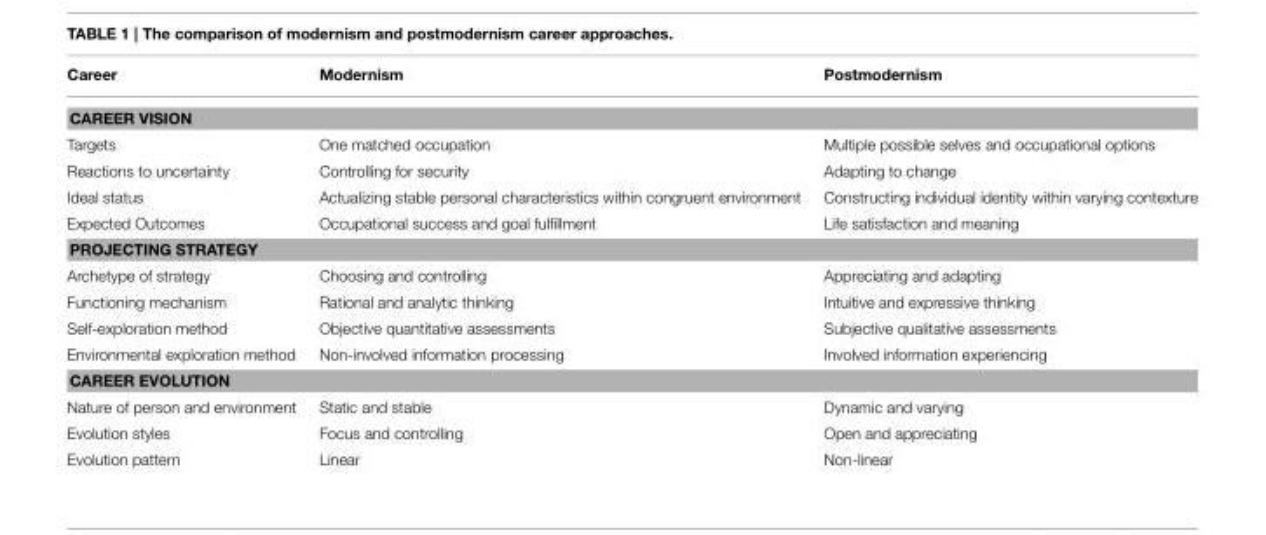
<table><thead><tr><td>Career</td><td>Modernism</td><td>Postmodernism</td></tr></thead><tbody><tr><td colspan="3">CAREER VISION</td></tr><tr><td>Targets</td><td>One matched occupation</td><td>Multiple possible selves and occupational options</td></tr><tr><td>Reactions to uncertainty</td><td>Controlling for security</td><td>Adapting to change</td></tr><tr><td>Ideal status</td><td>Actualizing stable personal characteristics within congruent environment</td><td>Constructing individual identity within varying contexture</td></tr><tr><td>Expected Outcomes</td><td>Occupational success and goal fulfillment</td><td>Life satisfaction and meaning</td></tr><tr><td colspan="3">PROJECTING STRATEGY</td></tr><tr><td>Archetype of strategy</td><td>Choosing and controlling</td><td>Appreciating and adapting</td></tr><tr><td>Functioning mechanism</td><td>Rational and analytic thinking</td><td>Intuitive and expressive thinking</td></tr><tr><td>Self-exploration method</td><td>Objective quantitative assessments</td><td>Subjective qualitative assessments</td></tr><tr><td>Environmental exploration method</td><td>Non-involved information processing</td><td>Involved information experiencing</td></tr><tr><td colspan="3">CAREER EVOLUTION</td></tr><tr><td>Nature of person and environment</td><td>Static and stable</td><td>Dynamic and varying</td></tr><tr><td>Evolution styles</td><td>Focus and controlling</td><td>Open and appreciating</td></tr><tr><td>Evolution pattern</td><td>Linear</td><td>Non-linear</td></tr></tbody></table>